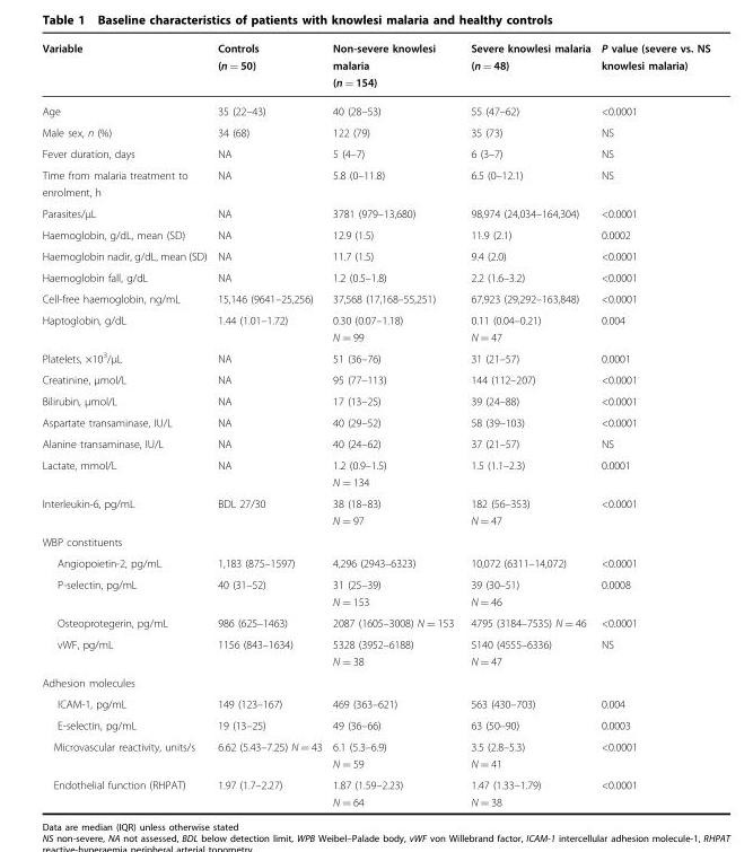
<table><thead><tr><td>Variable</td><td>Controls (n = 50)</td><td>Non-severe knowlesi malaria (n = 154)</td><td>Severe knowlesi malaria (n = 48)</td><td>P value (severe vs. NS knowlesi malaria)</td></tr></thead><tbody><tr><td>Age</td><td>35 (22–43)</td><td>40 (28–53)</td><td>55 (47–62)</td><td>&lt;0.0001</td></tr><tr><td>Male sex, n (%)</td><td>34 (68)</td><td>122 (79)</td><td>35 (73)</td><td>NS</td></tr><tr><td>Fever duration, days</td><td>NA</td><td>5 (4–7)</td><td>6 (3–7)</td><td>NS</td></tr><tr><td>Time from malaria treatment to enrolment, h</td><td>NA</td><td>5.8 (0–11.8)</td><td>6.5 (0–12.1)</td><td>NS</td></tr><tr><td>Parasites/µL</td><td>NA</td><td>3781 (979–13,680)</td><td>98,974 (24,034–164,304)</td><td>&lt;0.0001</td></tr><tr><td>Haemoglobin, g/dL, mean (SD)</td><td>NA</td><td>12.9 (1.5)</td><td>11.9 (2.1)</td><td>0.0002</td></tr><tr><td>Haemoglobin nadir, g/dL, mean (SD)</td><td>NA</td><td>11.7 (1.5)</td><td>9.4 (2.0)</td><td>&lt;0.0001</td></tr><tr><td>Haemoglobin fall, g/dL</td><td>NA</td><td>1.2 (0.5–1.8)</td><td>2.2 (1.6–3.2)</td><td>&lt;0.0001</td></tr><tr><td>Cell-free haemoglobin, ng/mL</td><td>15,146 (9641–25,256)</td><td>37,568 (17,168–55,251)</td><td>67,923 (29,292–163,848)</td><td>&lt;0.0001</td></tr><tr><td>Haptoglobin, g/dL</td><td>1.44 (1.01–1.72)</td><td>0.30 (0.07–1.18) N = 99</td><td>0.11 (0.04–0.21) N = 47</td><td>0.004</td></tr><tr><td>Platelets, ×10<sup>3</sup>/µL</td><td>NA</td><td>51 (36–76)</td><td>31 (21–57)</td><td>0.0001</td></tr><tr><td>Creatinine, µmol/L</td><td>NA</td><td>95 (77–113)</td><td>144 (112–207)</td><td>&lt;0.0001</td></tr><tr><td>Bilirubin, µmol/L</td><td>NA</td><td>17 (13–25)</td><td>39 (24–88)</td><td>&lt;0.0001</td></tr><tr><td>Aspartate transaminase, IU/L</td><td>NA</td><td>40 (29–52)</td><td>58 (39–103)</td><td>&lt;0.0001</td></tr><tr><td>Alanine transaminase, IU/L</td><td>NA</td><td>40 (24–62)</td><td>37 (21–57)</td><td>NS</td></tr><tr><td>Lactate, mmol/L</td><td>NA</td><td>1.2 (0.9–1.5) N = 134</td><td>1.5 (1.1–2.3)</td><td>0.0001</td></tr><tr><td>Interleukin-6, pg/mL</td><td>BDL 27/30</td><td>38 (18–83) N = 97</td><td>182 (56–353) N = 47</td><td>&lt;0.0001</td></tr><tr><td colspan="5">WBP constituents</td></tr><tr><td>Angiopoietin-2, pg/mL</td><td>1,183 (875–1597)</td><td>4,296 (2943–6323)</td><td>10,072 (6311–14,072)</td><td>&lt;0.0001</td></tr><tr><td>P-selectin, pg/mL</td><td>40 (31–52)</td><td>31 (25–39) N = 153</td><td>39 (30–51) N = 46</td><td>0.0008</td></tr><tr><td>Osteoprotegerin, pg/mL</td><td>986 (625–1463)</td><td>2087 (1605–3008) N = 153</td><td>4795 (3184–7535) N = 46</td><td>&lt;0.0001</td></tr><tr><td>vWF, pg/mL</td><td>1156 (843–1634)</td><td>5328 (3952–6188) N = 38</td><td>5140 (4555–6336) N = 47</td><td>NS</td></tr><tr><td colspan="5">Adhesion molecules</td></tr><tr><td>ICAM-1, pg/mL</td><td>149 (123–167)</td><td>469 (363–621)</td><td>563 (430–703)</td><td>0.004</td></tr><tr><td>E-selectin, pg/mL</td><td>19 (13–25)</td><td>49 (36–66)</td><td>63 (50–90)</td><td>0.0003</td></tr><tr><td>Microvascular reactivity, units/s</td><td>6.62 (5.43–7.25) N = 43</td><td>6.1 (5.3–6.9) N = 59</td><td>3.5 (2.8–5.3) N = 41</td><td>&lt;0.0001</td></tr><tr><td>Endothelial function (RHPAT)</td><td>1.97 (1.7–2.27)</td><td>1.87 (1.59–2.23) N = 64</td><td>1.47 (1.33–1.79) N = 38</td><td>&lt;0.0001</td></tr></tbody></table>